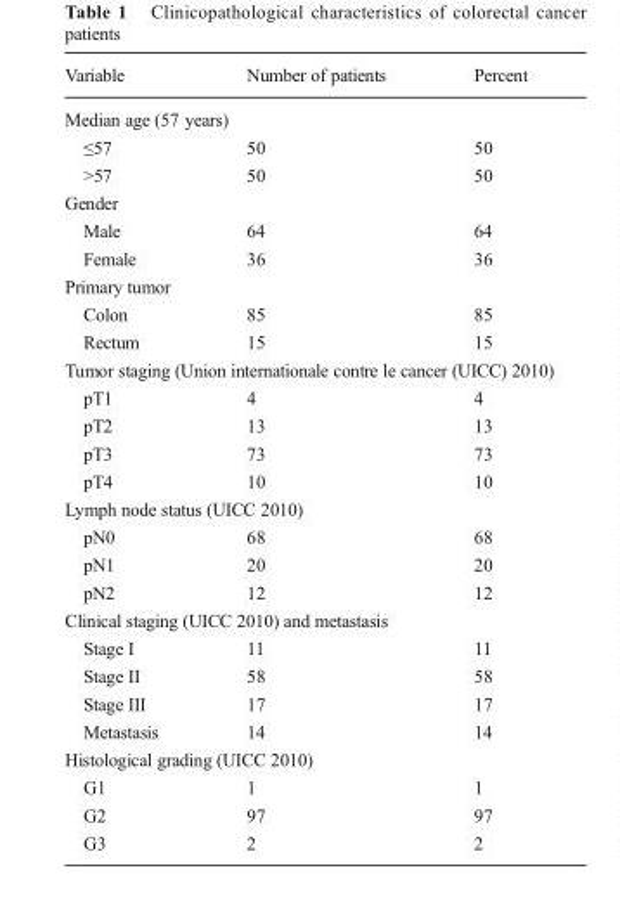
<table><thead><tr><td>Variable</td><td>Number of patients</td><td>Percent</td></tr></thead><tbody><tr><td colspan="3">Median age (57 years)</td></tr><tr><td>≤57</td><td>50</td><td>50</td></tr><tr><td>&gt;57</td><td>50</td><td>50</td></tr><tr><td colspan="3">Gender</td></tr><tr><td>Male</td><td>64</td><td>64</td></tr><tr><td>Female</td><td>36</td><td>36</td></tr><tr><td colspan="3">Primary tumor</td></tr><tr><td>Colon</td><td>85</td><td>85</td></tr><tr><td>Rectum</td><td>15</td><td>15</td></tr><tr><td colspan="3">Tumor staging (Union internationale contre le cancer (UICC) 2010)</td></tr><tr><td>pT1</td><td>4</td><td>4</td></tr><tr><td>pT2</td><td>13</td><td>13</td></tr><tr><td>pT3</td><td>73</td><td>73</td></tr><tr><td>pT4</td><td>10</td><td>10</td></tr><tr><td colspan="3">Lymph node status (UICC 2010)</td></tr><tr><td>pN0</td><td>68</td><td>68</td></tr><tr><td>pN1</td><td>20</td><td>20</td></tr><tr><td>pN2</td><td>12</td><td>12</td></tr><tr><td colspan="3">Clinical staging (UICC 2010) and metastasis</td></tr><tr><td>Stage I</td><td>11</td><td>11</td></tr><tr><td>Stage II</td><td>58</td><td>58</td></tr><tr><td>Stage III</td><td>17</td><td>17</td></tr><tr><td>Metastasis</td><td>14</td><td>14</td></tr><tr><td colspan="3">Histological grading (UICC 2010)</td></tr><tr><td>G1</td><td>1</td><td>1</td></tr><tr><td>G2</td><td>97</td><td>97</td></tr><tr><td>G3</td><td>2</td><td>2</td></tr></tbody></table>